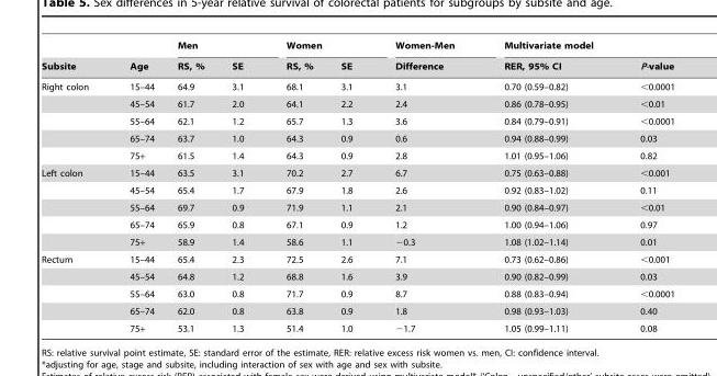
<table><thead><tr><td rowspan="2">Subsite</td><td rowspan="2">Age</td><td colspan="2">Men</td><td colspan="2">Women</td><td rowspan="2">Women-Men Difference</td><td colspan="2">Multivariate model</td></tr><tr><td>RS, %</td><td>SE</td><td>RS, %</td><td>SE</td><td>RER, 95% CI</td><td>P-value</td></tr></thead><tbody><tr><td rowspan="5">Right colon</td><td>15–44</td><td>64.9</td><td>3.1</td><td>68.1</td><td>3.1</td><td>3.1</td><td>0.70 (0.59–0.82)</td><td>&lt;0.0001</td></tr><tr><td>45–54</td><td>61.7</td><td>2.0</td><td>64.1</td><td>2.2</td><td>2.4</td><td>0.86 (0.78–0.95)</td><td>&lt;0.01</td></tr><tr><td>55–64</td><td>62.1</td><td>1.2</td><td>65.7</td><td>1.3</td><td>3.6</td><td>0.84 (0.79–0.91)</td><td>&lt;0.0001</td></tr><tr><td>65–74</td><td>63.7</td><td>1.0</td><td>64.3</td><td>0.9</td><td>0.6</td><td>0.94 (0.88–0.99)</td><td>0.03</td></tr><tr><td>75+</td><td>61.5</td><td>1.4</td><td>64.3</td><td>0.9</td><td>2.8</td><td>1.01 (0.95–1.06)</td><td>0.82</td></tr><tr><td rowspan="5">Left colon</td><td>15–44</td><td>63.5</td><td>3.1</td><td>70.2</td><td>2.7</td><td>6.7</td><td>0.75 (0.63–0.88)</td><td>&lt;0.001</td></tr><tr><td>45–54</td><td>65.4</td><td>1.7</td><td>67.9</td><td>1.8</td><td>2.6</td><td>0.92 (0.83–1.02)</td><td>0.11</td></tr><tr><td>55–64</td><td>69.7</td><td>0.9</td><td>71.9</td><td>1.1</td><td>2.1</td><td>0.90 (0.84–0.97)</td><td>&lt;0.01</td></tr><tr><td>65–74</td><td>65.9</td><td>0.8</td><td>67.1</td><td>0.9</td><td>1.2</td><td>1.00 (0.94–1.06)</td><td>0.97</td></tr><tr><td>75+</td><td>58.9</td><td>1.4</td><td>58.6</td><td>1.1</td><td>−0.3</td><td>1.08 (1.02–1.14)</td><td>0.01</td></tr><tr><td rowspan="5">Rectum</td><td>15–44</td><td>65.4</td><td>2.3</td><td>72.5</td><td>2.6</td><td>7.1</td><td>0.73 (0.62–0.86)</td><td>&lt;0.001</td></tr><tr><td>45–54</td><td>64.8</td><td>1.2</td><td>68.8</td><td>1.6</td><td>3.9</td><td>0.90 (0.82–0.99)</td><td>0.03</td></tr><tr><td>55–64</td><td>63.0</td><td>0.8</td><td>71.7</td><td>0.9</td><td>8.7</td><td>0.88 (0.83–0.94)</td><td>&lt;0.0001</td></tr><tr><td>65–74</td><td>62.0</td><td>0.8</td><td>63.8</td><td>0.9</td><td>1.8</td><td>0.98 (0.93–1.03)</td><td>0.40</td></tr><tr><td>75+</td><td>53.1</td><td>1.3</td><td>51.4</td><td>1.0</td><td>−1.7</td><td>1.05 (0.99–1.11)</td><td>0.08</td></tr></tbody></table>